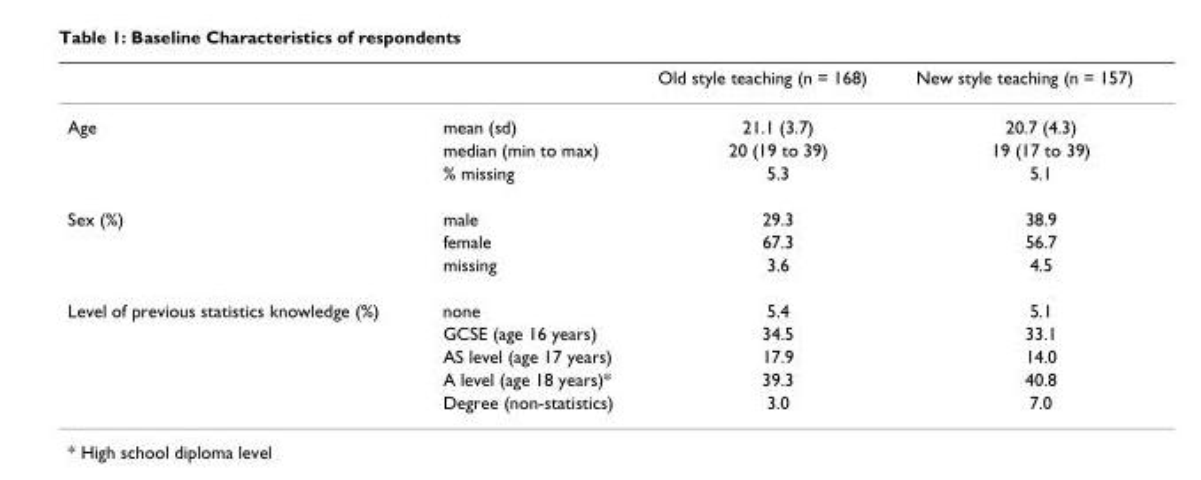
<table><thead><tr><td></td><td></td><td>Old style teaching (n = 168)</td><td>New style teaching (n = 157)</td></tr></thead><tbody><tr><td rowspan="3">Age</td><td>mean (sd)</td><td>21.1 (3.7)</td><td>20.7 (4.3)</td></tr><tr><td>median (min to max)</td><td>20 (19 to 39)</td><td>19 (17 to 39)</td></tr><tr><td>% missing</td><td>5.3</td><td>5.1</td></tr><tr><td rowspan="3">Sex (%)</td><td>male</td><td>29.3</td><td>38.9</td></tr><tr><td>female</td><td>67.3</td><td>56.7</td></tr><tr><td>missing</td><td>3.6</td><td>4.5</td></tr><tr><td rowspan="5">Level of previous statistics knowledge (%)</td><td>none</td><td>5.4</td><td>5.1</td></tr><tr><td>GCSE (age 16 years)</td><td>34.5</td><td>33.1</td></tr><tr><td>AS level (age 17 years)</td><td>17.9</td><td>14.0</td></tr><tr><td>A level (age 18 years)*</td><td>39.3</td><td>40.8</td></tr><tr><td>Degree (non-statistics)</td><td>3.0</td><td>7.0</td></tr></tbody></table>